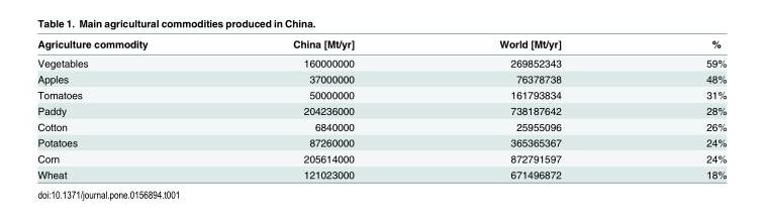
<table><thead><tr><td>Agriculture commodity</td><td>China [Mt/yr]</td><td>World [Mt/yr]</td><td>%</td></tr></thead><tbody><tr><td>Vegetables</td><td>160000000</td><td>269852343</td><td>59%</td></tr><tr><td>Apples</td><td>37000000</td><td>76378738</td><td>48%</td></tr><tr><td>Tomatoes</td><td>50000000</td><td>161793834</td><td>31%</td></tr><tr><td>Paddy</td><td>204236000</td><td>738187642</td><td>28%</td></tr><tr><td>Cotton</td><td>6840000</td><td>25955096</td><td>26%</td></tr><tr><td>Potatoes</td><td>87260000</td><td>365365367</td><td>24%</td></tr><tr><td>Corn</td><td>205614000</td><td>872791597</td><td>24%</td></tr><tr><td>Wheat</td><td>121023000</td><td>671496872</td><td>18%</td></tr></tbody></table>